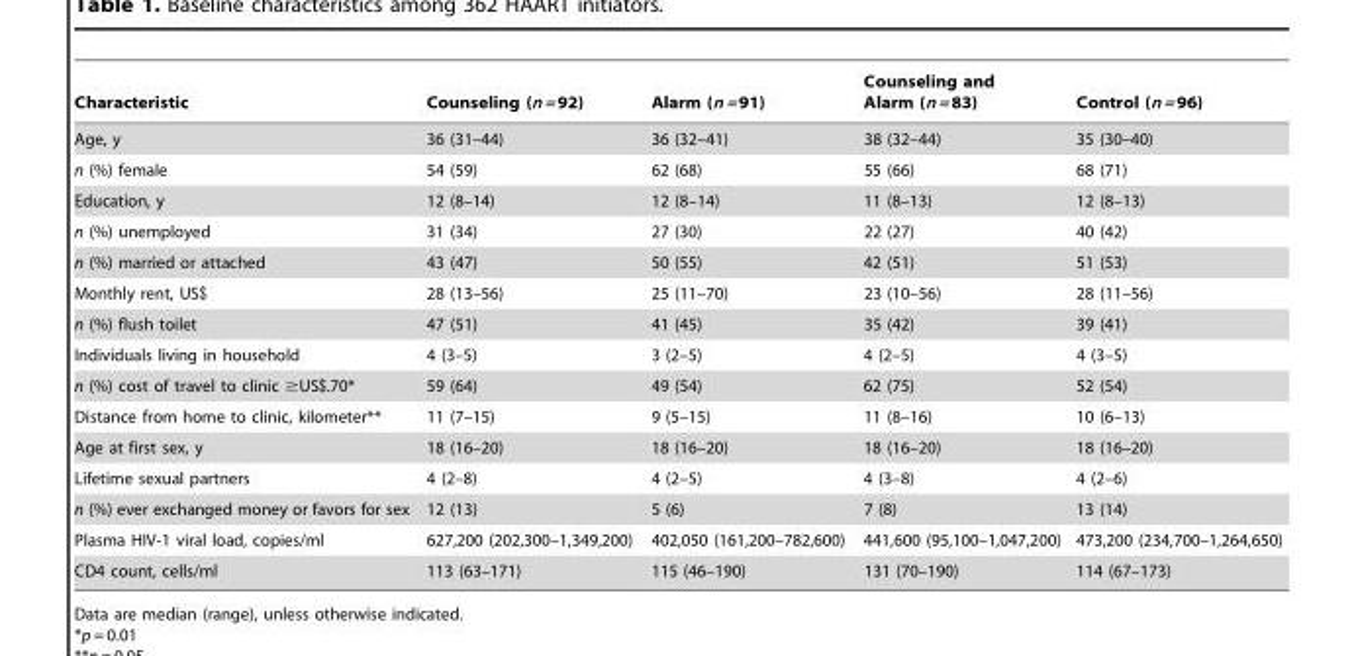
<table><thead><tr><td>Characteristic</td><td>Counseling (n = 92)</td><td>Alarm (n = 91)</td><td>Counseling and Alarm (n = 83)</td><td>Control (n = 96)</td></tr></thead><tbody><tr><td>Age, y</td><td>36 (31–44)</td><td>36 (32–41)</td><td>38 (32–44)</td><td>35 (30–40)</td></tr><tr><td>n (%) female</td><td>54 (59)</td><td>62 (68)</td><td>55 (66)</td><td>68 (71)</td></tr><tr><td>Education, y</td><td>12 (8–14)</td><td>12 (8–14)</td><td>11 (8–13)</td><td>12 (8–13)</td></tr><tr><td>n (%) unemployed</td><td>31 (34)</td><td>27 (30)</td><td>22 (27)</td><td>40 (42)</td></tr><tr><td>n (%) married or attached</td><td>43 (47)</td><td>50 (55)</td><td>42 (51)</td><td>51 (53)</td></tr><tr><td>Monthly rent, US$</td><td>28 (13–56)</td><td>25 (11–70)</td><td>23 (10–56)</td><td>28 (11–56)</td></tr><tr><td>n (%) flush toilet</td><td>47 (51)</td><td>41 (45)</td><td>35 (42)</td><td>39 (41)</td></tr><tr><td>Individuals living in household</td><td>4 (3–5)</td><td>3 (2–5)</td><td>4 (2–5)</td><td>4 (3–5)</td></tr><tr><td>n (%) cost of travel to clinic ≥US$.70*</td><td>59 (64)</td><td>49 (54)</td><td>62 (75)</td><td>52 (54)</td></tr><tr><td>Distance from home to clinic, kilometer**</td><td>11 (7–15)</td><td>9 (5–15)</td><td>11 (8–16)</td><td>10 (6–13)</td></tr><tr><td>Age at first sex, y</td><td>18 (16–20)</td><td>18 (16–20)</td><td>18 (16–20)</td><td>18 (16–20)</td></tr><tr><td>Lifetime sexual partners</td><td>4 (2–8)</td><td>4 (2–5)</td><td>4 (3–8)</td><td>4 (2–6)</td></tr><tr><td>n (%) ever exchanged money or favors for sex</td><td>12 (13)</td><td>5 (6)</td><td>7 (8)</td><td>13 (14)</td></tr><tr><td>Plasma HIV-1 viral load, copies/ml</td><td>627,200 (202,300–1,349,200)</td><td>402,050 (161,200–782,600)</td><td>441,600 (95,100–1,047,200)</td><td>473,200 (234,700–1,264,650)</td></tr><tr><td>CD4 count, cells/ml</td><td>113 (63–171)</td><td>115 (46–190)</td><td>131 (70–190)</td><td>114 (67–173)</td></tr></tbody></table>